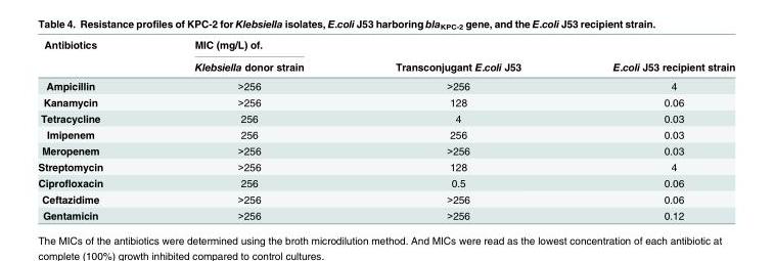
<table><thead><tr><td rowspan="2">Antibiotics</td><td rowspan="2">MIC (mg/L) of. Klebsiella donor strain</td><td rowspan="2">Transconjugant E.coli J53</td><td rowspan="2">E.coli J53 recipient strain</td></tr><tr></tr></thead><tbody><tr><td>Ampicillin</td><td>&gt;256</td><td>&gt;256</td><td>4</td></tr><tr><td>Kanamycin</td><td>&gt;256</td><td>128</td><td>0.06</td></tr><tr><td>Tetracycline</td><td>256</td><td>4</td><td>0.03</td></tr><tr><td>Imipenem</td><td>256</td><td>256</td><td>0.03</td></tr><tr><td>Meropenem</td><td>&gt;256</td><td>&gt;256</td><td>0.03</td></tr><tr><td>Streptomycin</td><td>&gt;256</td><td>128</td><td>4</td></tr><tr><td>Ciprofloxacin</td><td>256</td><td>0.5</td><td>0.06</td></tr><tr><td>Ceftazidime</td><td>&gt;256</td><td>&gt;256</td><td>0.06</td></tr><tr><td>Gentamicin</td><td>&gt;256</td><td>&gt;256</td><td>0.12</td></tr></tbody></table>